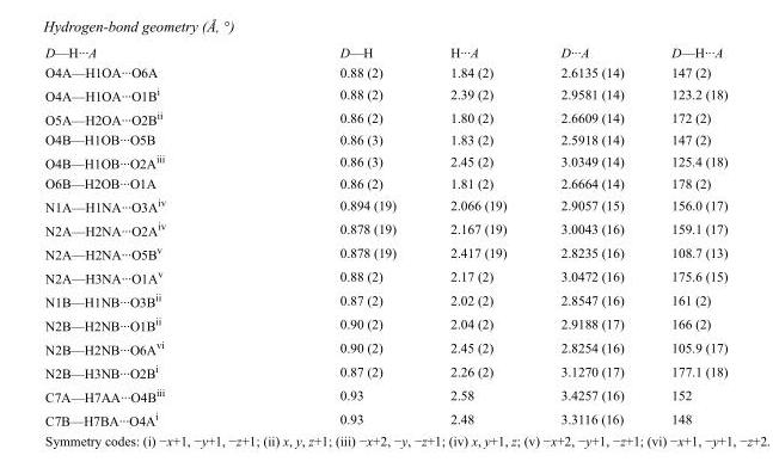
<table><tbody><tr><td>D—H···A</td><td>D—H</td><td>H···A</td><td>D···A</td><td>D—H···A</td></tr><tr><td>O4A—H1OA···O6A</td><td>0.88 (2)</td><td>1.84 (2)</td><td>2.6135 (14)</td><td>147 (2)</td></tr><tr><td>O4A—H1OA···O1B<sup>i</sup></td><td>0.88 (2)</td><td>2.39 (2)</td><td>2.9581 (14)</td><td>123.2 (18)</td></tr><tr><td>O5A—H2OA···O2B<sup>ii</sup></td><td>0.86 (2)</td><td>1.80 (2)</td><td>2.6609 (14)</td><td>172 (2)</td></tr><tr><td>O4B—H1OB···O5B</td><td>0.86 (3)</td><td>1.83 (2)</td><td>2.5918 (14)</td><td>147 (2)</td></tr><tr><td>O4B—H1OB···O2A<sup>iii</sup></td><td>0.86 (3)</td><td>2.45 (2)</td><td>3.0349 (14)</td><td>125.4 (18)</td></tr><tr><td>O6B—H2OB···O1A</td><td>0.86 (2)</td><td>1.81 (2)</td><td>2.6664 (14)</td><td>178 (2)</td></tr><tr><td>N1A—H1NA···O3A<sup>iv</sup></td><td>0.894 (19)</td><td>2.066 (19)</td><td>2.9057 (15)</td><td>156.0 (17)</td></tr><tr><td>N2A—H2NA···O2A<sup>iv</sup></td><td>0.878 (19)</td><td>2.167 (19)</td><td>3.0043 (16)</td><td>159.1 (17)</td></tr><tr><td>N2A—H2NA···O5B<sup>v</sup></td><td>0.878 (19)</td><td>2.417 (19)</td><td>2.8235 (16)</td><td>108.7 (13)</td></tr><tr><td>N2A—H3NA···O1A<sup>v</sup></td><td>0.88 (2)</td><td>2.17 (2)</td><td>3.0472 (16)</td><td>175.6 (15)</td></tr><tr><td>N1B—H1NB···O3B<sup>ii</sup></td><td>0.87 (2)</td><td>2.02 (2)</td><td>2.8547 (16)</td><td>161 (2)</td></tr><tr><td>N2B—H2NB···O1B<sup>ii</sup></td><td>0.90 (2)</td><td>2.04 (2)</td><td>2.9188 (17)</td><td>166 (2)</td></tr><tr><td>N2B—H2NB···O6A<sup>vi</sup></td><td>0.90 (2)</td><td>2.45 (2)</td><td>2.8254 (16)</td><td>105.9 (17)</td></tr><tr><td>N2B—H3NB···O2B<sup>i</sup></td><td>0.87 (2)</td><td>2.26 (2)</td><td>3.1270 (17)</td><td>177.1 (18)</td></tr><tr><td>C7A—H7AA···O4B<sup>iii</sup></td><td>0.93</td><td>2.58</td><td>3.4257 (16)</td><td>152</td></tr><tr><td>C7B—H7BA···O4A<sup>i</sup></td><td>0.93</td><td>2.48</td><td>3.3116 (16)</td><td>148</td></tr></tbody></table>